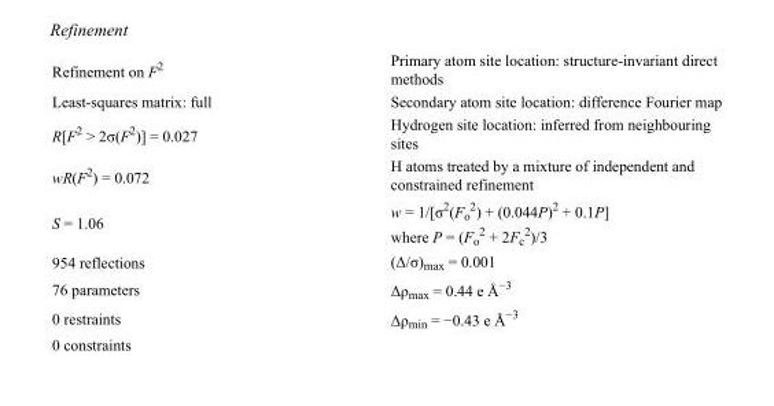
<table><tbody><tr><td>Refinement on F<sup>2</sup></td><td>Primary atom site location: structure-invariant direct methods</td></tr><tr><td>Least-squares matrix: full</td><td>Secondary atom site location: difference Fourier map</td></tr><tr><td>R[F<sup>2</sup> &gt; 2σ(F<sup>2</sup>)] = 0.027</td><td>Hydrogen site location: inferred from neighbouring sites</td></tr><tr><td>wR(F<sup>2</sup>) = 0.072</td><td>H atoms treated by a mixture of independent and constrained refinement</td></tr><tr><td>S = 1.06</td><td>w = 1/[σ<sup>2</sup>(F<sub>o</sub> <sup>2</sup>) + (0.044P)<sup>2</sup> + 0.1P] where P = (F<sub>o</sub> <sup>2</sup> + 2F<sub>c</sub> <sup>2</sup>)/3</td></tr><tr><td>954 reflections</td><td>(Δ/σ)<sub>max</sub> = 0.001</td></tr><tr><td>76 parameters</td><td>Δρ<sub>max</sub> = 0.44 e Å<sup>−3</sup></td></tr><tr><td>0 restraints</td><td>Δρ<sub>min</sub> = −0.43 e Å<sup>−3</sup></td></tr><tr><td>0 constraints</td><td></td></tr></tbody></table>